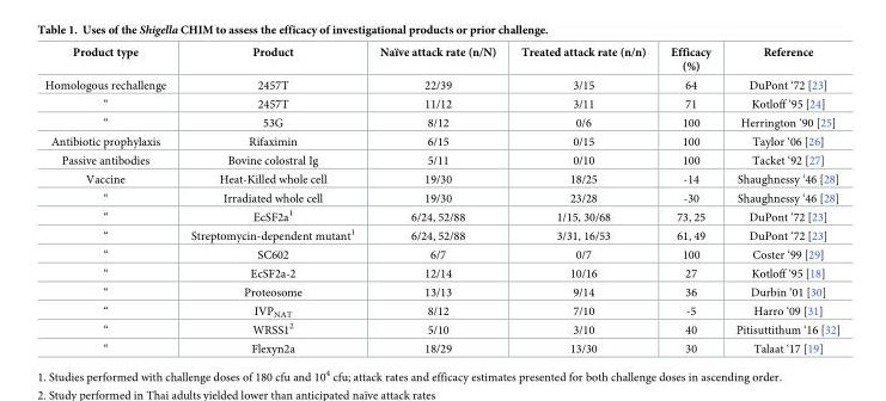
<table><thead><tr><td>Product type</td><td>Product</td><td>Naïve attack rate (n/N)</td><td>Treated attack rate (n/n)</td><td>Efficacy (%)</td><td>Reference</td></tr></thead><tbody><tr><td>Homologous rechallenge</td><td>2457T</td><td>22/39</td><td>3/15</td><td>64</td><td>DuPont ‘72 [23]</td></tr><tr><td>“</td><td>2457T</td><td>11/12</td><td>3/11</td><td>71</td><td>Kotloff ‘95 [24]</td></tr><tr><td>“</td><td>53G</td><td>8/12</td><td>0/6</td><td>100</td><td>Herrington ‘90 [25]</td></tr><tr><td>Antibiotic prophylaxis</td><td>Rifaximin</td><td>6/15</td><td>0/15</td><td>100</td><td>Taylor ‘06 [26]</td></tr><tr><td>Passive antibodies</td><td>Bovine colostral Ig</td><td>5/11</td><td>0/10</td><td>100</td><td>Tacket ‘92 [27]</td></tr><tr><td>Vaccine</td><td>Heat-Killed whole cell</td><td>19/30</td><td>18/25</td><td>-14</td><td>Shaughnessy ‘46 [28]</td></tr><tr><td>“</td><td>Irradiated whole cell</td><td>19/30</td><td>23/28</td><td>-30</td><td>Shaughnessy ‘46 [28]</td></tr><tr><td>“</td><td>EcSF2a<sup>1</sup></td><td>6/24, 52/88</td><td>1/15, 30/68</td><td>73, 25</td><td>DuPont ‘72 [23]</td></tr><tr><td>“</td><td>Streptomycin-dependent mutant<sup>1</sup></td><td>6/24, 52/88</td><td>3/31, 16/53</td><td>61, 49</td><td>DuPont ‘72 [23]</td></tr><tr><td>“</td><td>SC602</td><td>6/7</td><td>0/7</td><td>100</td><td>Coster ‘99 [29]</td></tr><tr><td>“</td><td>EcSF2a-2</td><td>12/14</td><td>10/16</td><td>27</td><td>Kotloff ‘95 [18]</td></tr><tr><td>“</td><td>Proteosome</td><td>13/13</td><td>9/14</td><td>36</td><td>Durbin ‘01 [30]</td></tr><tr><td>“</td><td>IVP<sub>NAT</sub></td><td>8/12</td><td>7/10</td><td>-5</td><td>Harro ‘09 [31]</td></tr><tr><td>“</td><td>WRSS1<sup>2</sup></td><td>5/10</td><td>3/10</td><td>40</td><td>Pitisuttithum ‘16 [32]</td></tr><tr><td>“</td><td>Flexyn2a</td><td>18/29</td><td>13/30</td><td>30</td><td>Talaat ‘17 [19]</td></tr></tbody></table>